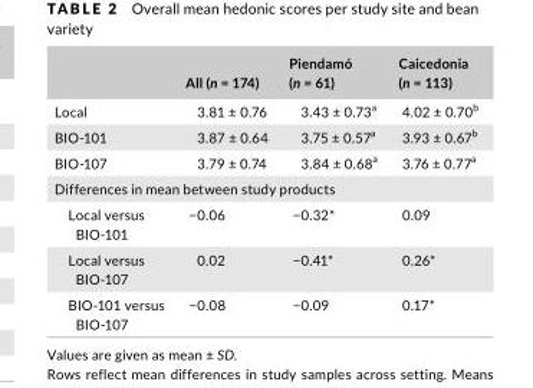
<table><thead><tr><td></td><td>All (n = 174)</td><td>Piendamó (n = 61)</td><td>Caicedonia (n = 113)</td></tr></thead><tbody><tr><td>Local</td><td>3.81 ± 0.76</td><td>3.43 ± 0.73<sup>a</sup></td><td>4.02 ± 0.70<sup>b</sup></td></tr><tr><td>BIO- 101</td><td>3.87 ± 0.64</td><td>3.75 ± 0.57<sup>a</sup></td><td>3.93 ± 0.67<sup>b</sup></td></tr><tr><td>BIO- 107</td><td>3.79 ± 0.74</td><td>3.84 ± 0.68<sup>a</sup></td><td>3.76 ± 0.77<sup>a</sup></td></tr><tr><td colspan="4">Differences in mean between study products</td></tr><tr><td>Local versus BIO- 101</td><td>−0.06</td><td>−0.32*</td><td>0.09</td></tr><tr><td>Local versus BIO- 107</td><td>0.02</td><td>−0.41*</td><td>0.26*</td></tr><tr><td>BIO- 101 versus BIO- 107</td><td>−0.08</td><td>−0.09</td><td>0.17*</td></tr></tbody></table>